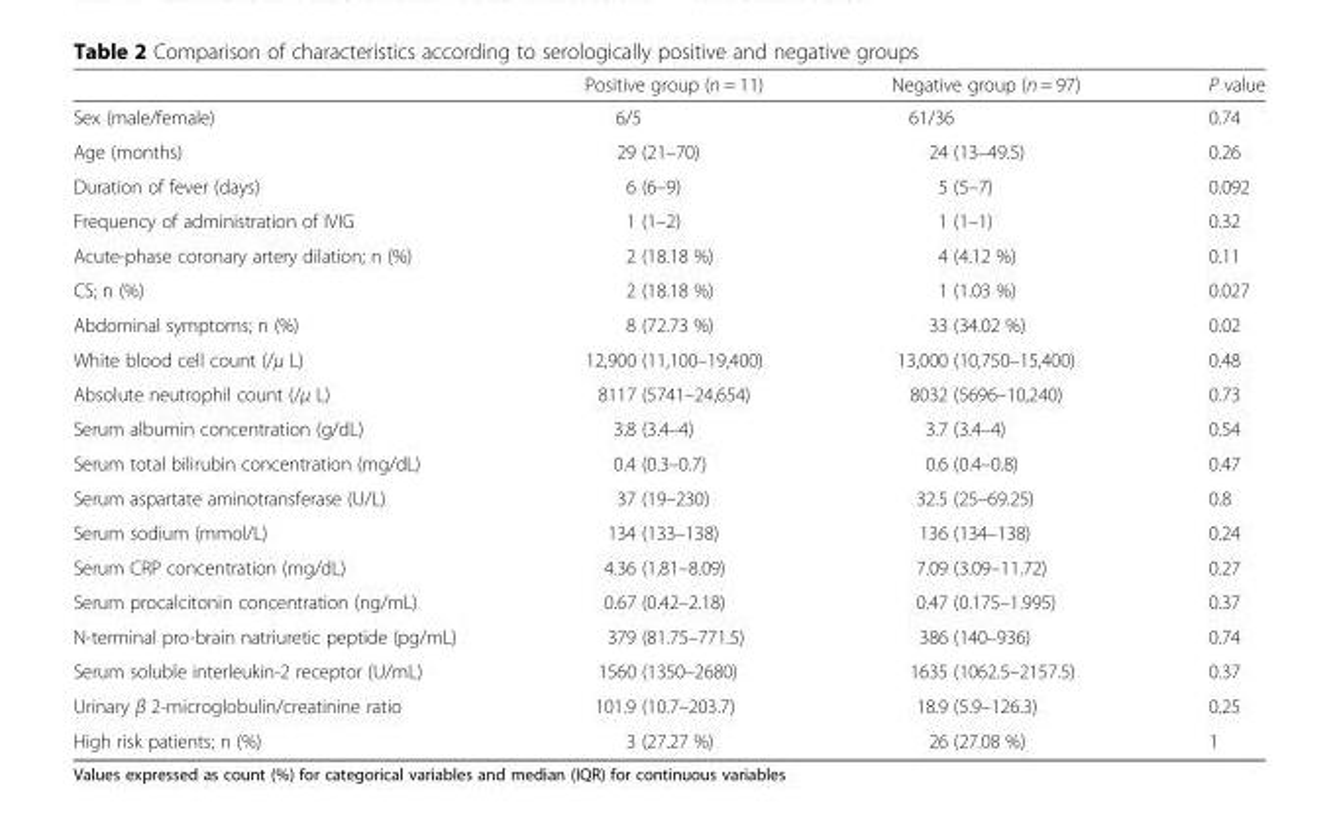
<table><thead><tr><td></td><td>Positive group (n = 11)</td><td>Negative group (n = 97)</td><td>P value</td></tr></thead><tbody><tr><td>Sex (male/female)</td><td>6/5</td><td>61/36</td><td>0.74</td></tr><tr><td>Age (months)</td><td>29 (21–70)</td><td>24 (13–49.5)</td><td>0.26</td></tr><tr><td>Duration of fever (days)</td><td>6 (6–9)</td><td>5 (5–7)</td><td>0.092</td></tr><tr><td>Frequency of administration of IVIG</td><td>1 (1–2)</td><td>1 (1–1)</td><td>0.32</td></tr><tr><td>Acute-phase coronary artery dilation; n (%)</td><td>2 (18.18 %)</td><td>4 (4.12 %)</td><td>0.11</td></tr><tr><td>CS; n (%)</td><td>2 (18.18 %)</td><td>1 (1.03 %)</td><td>0.027</td></tr><tr><td>Abdominal symptoms; n (%)</td><td>8 (72.73 %)</td><td>33 (34.02 %)</td><td>0.02</td></tr><tr><td>White blood cell count (/μ L)</td><td>12,900 (11,100–19,400)</td><td>13,000 (10,750–15,400)</td><td>0.48</td></tr><tr><td>Absolute neutrophil count (/μ L)</td><td>8117 (5741–24,654)</td><td>8032 (5696–10,240)</td><td>0.73</td></tr><tr><td>Serum albumin concentration (g/dL)</td><td>3.8 (3.4–4)</td><td>3.7 (3.4–4)</td><td>0.54</td></tr><tr><td>Serum total bilirubin concentration (mg/dL)</td><td>0.4 (0.3–0.7)</td><td>0.6 (0.4–0.8)</td><td>0.47</td></tr><tr><td>Serum aspartate aminotransferase (U/L)</td><td>37 (19–230)</td><td>32.5 (25–69.25)</td><td>0.8</td></tr><tr><td>Serum sodium (mmol/L)</td><td>134 (133–138)</td><td>136 (134–138)</td><td>0.24</td></tr><tr><td>Serum CRP concentration (mg/dL)</td><td>4.36 (1.81–8.09)</td><td>7.09 (3.09–11.72)</td><td>0.27</td></tr><tr><td>Serum procalcitonin concentration (ng/mL)</td><td>0.67 (0.42–2.18)</td><td>0.47 (0.175–1.995)</td><td>0.37</td></tr><tr><td>N-terminal pro-brain natriuretic peptide (pg/mL)</td><td>379 (81.75–771.5)</td><td>386 (140–936)</td><td>0.74</td></tr><tr><td>Serum soluble interleukin-2 receptor (U/mL)</td><td>1560 (1350–2680)</td><td>1635 (1062.5–2157.5)</td><td>0.37</td></tr><tr><td>Urinary β 2-microglobulin/creatinine ratio</td><td>101.9 (10.7–203.7)</td><td>18.9 (5.9–126.3)</td><td>0.25</td></tr><tr><td>High risk patients; n (%)</td><td>3 (27.27 %)</td><td>26 (27.08 %)</td><td>1</td></tr></tbody></table>